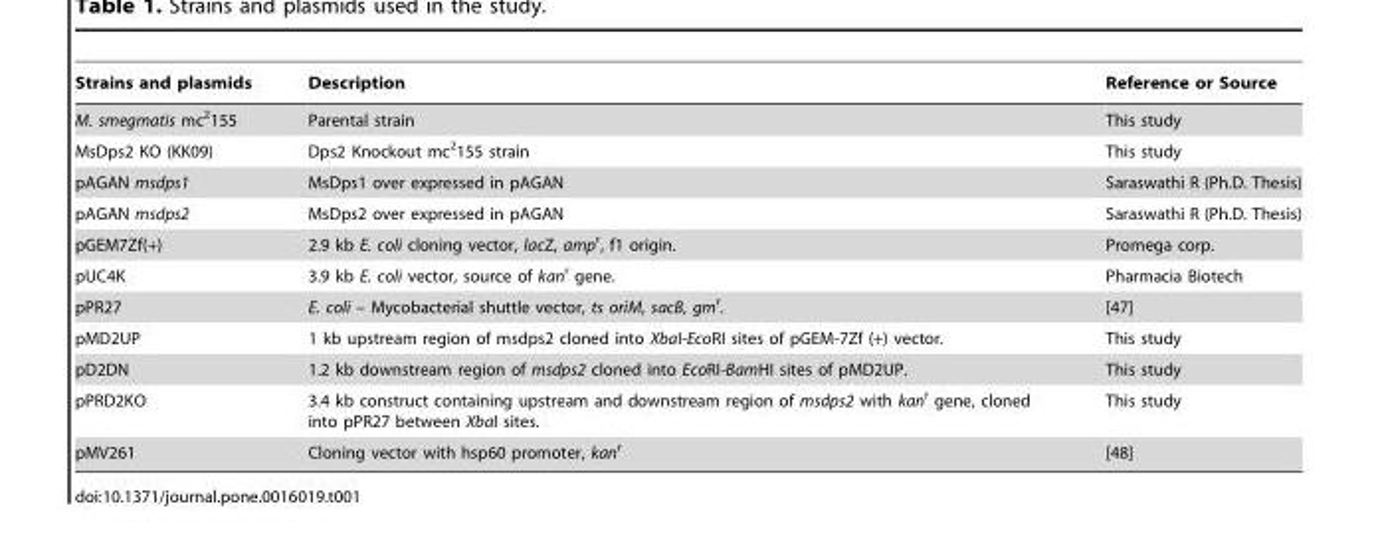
<table><thead><tr><td>Strains and plasmids</td><td>Description</td><td>Reference or Source</td></tr></thead><tbody><tr><td>M. smegmatis mc<sup>2</sup>155</td><td>Parental strain</td><td>This study</td></tr><tr><td>MsDps2 KO (KK09)</td><td>Dps2 Knockout mc<sup>2</sup>155 strain</td><td>This study</td></tr><tr><td>pAGAN msdps1</td><td>MsDps1 over expressed in pAGAN</td><td>Saraswathi R (Ph.D. Thesis)</td></tr><tr><td>pAGAN msdps2</td><td>MsDps2 over expressed in pAGAN</td><td>Saraswathi R (Ph.D. Thesis)</td></tr><tr><td>pGEM7Zf(+)</td><td>2.9 kb E. coli cloning vector, lacZ, amp<sup>r</sup>, f1 origin.</td><td>Promega corp.</td></tr><tr><td>pUC4K</td><td>3.9 kb E. coli vector, source of kan<sup>r</sup> gene.</td><td>Pharmacia Biotech</td></tr><tr><td>pPR27</td><td>E. coli – Mycobacterial shuttle vector, ts oriM, sacB, gm<sup>r</sup>.</td><td>[47]</td></tr><tr><td>pMD2UP</td><td>1 kb upstream region of msdps2 cloned into XbaI-EcoRI sites of pGEM-7Zf (+) vector.</td><td>This study</td></tr><tr><td>pD2DN</td><td>1.2 kb downstream region of msdps2 cloned into EcoRI-BamHI sites of pMD2UP.</td><td>This study</td></tr><tr><td>pPRD2KO</td><td>3.4 kb construct containing upstream and downstream region of msdps2 with kan<sup>r</sup> gene, cloned into pPR27 between XbaI sites.</td><td>This study</td></tr><tr><td>pMV261</td><td>Cloning vector with hsp60 promoter, kan<sup>r</sup></td><td>[48]</td></tr></tbody></table>